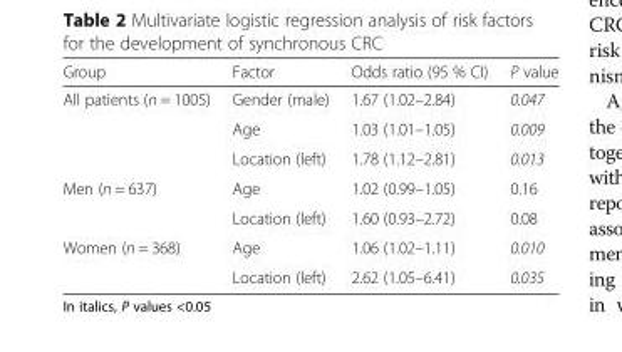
<table><thead><tr><td>Group</td><td>Factor</td><td>Odds ratio (95 % CI)</td><td>P value</td></tr></thead><tbody><tr><td rowspan="3">All patients (n = 1005)</td><td>Gender (male)</td><td>1.67 (1.02–2.84)</td><td>0.047</td></tr><tr><td>Age</td><td>1.03 (1.01–1.05)</td><td>0.009</td></tr><tr><td>Location (left)</td><td>1.78 (1.12–2.81)</td><td>0.013</td></tr><tr><td rowspan="2">Men (n = 637)</td><td>Age</td><td>1.02 (0.99–1.05)</td><td>0.16</td></tr><tr><td>Location (left)</td><td>1.60 (0.93–2.72)</td><td>0.08</td></tr><tr><td rowspan="2">Women (n = 368)</td><td>Age</td><td>1.06 (1.02–1.11)</td><td>0.010</td></tr><tr><td>Location (left)</td><td>2.62 (1.05–6.41)</td><td>0.035</td></tr></tbody></table>